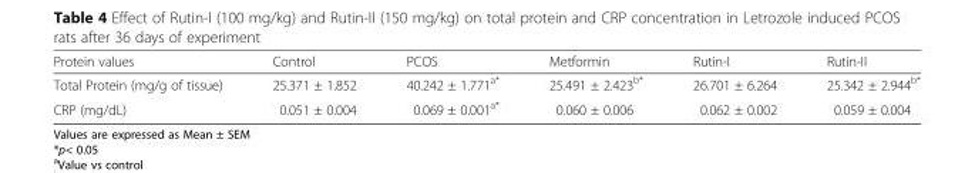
<table><thead><tr><td>Protein values</td><td>Control</td><td>PCOS</td><td>Metformin</td><td>Rutin-I</td><td>Rutin-II</td></tr></thead><tbody><tr><td>Total Protein (mg/g of tissue)</td><td>25.371 ± 1.852</td><td>40.242 ± 1.771<sup>a*</sup></td><td>25.491 ± 2.423<sup>b*</sup></td><td>26.701 ± 6.264</td><td>25.342 ± 2.944<sup>b*</sup></td></tr><tr><td>CRP (mg/dL)</td><td>0.051 ± 0.004</td><td>0.069 ± 0.001<sup>a*</sup></td><td>0.060 ± 0.006</td><td>0.062 ± 0.002</td><td>0.059 ± 0.004</td></tr></tbody></table>